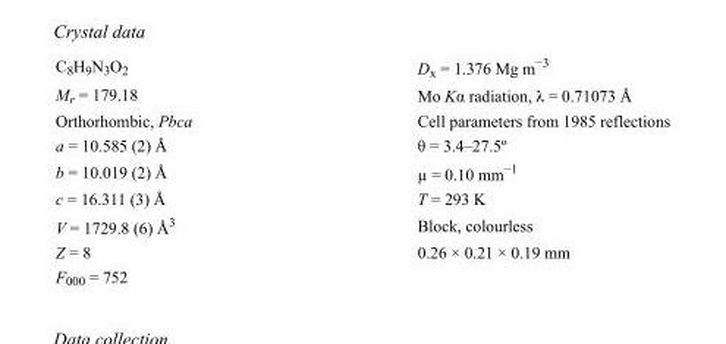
<table><tbody><tr><td>C<sub>8</sub>H<sub>9</sub>N<sub>3</sub>O<sub>2</sub></td><td>D<sub>x</sub> = 1.376 Mg m<sup>−3</sup></td></tr><tr><td>M<sub>r</sub> = 179.18</td><td>Mo Kα radiation, λ = 0.71073 Å</td></tr><tr><td>Orthorhombic, Pbca</td><td>Cell parameters from 1985 reflections</td></tr><tr><td>a = 10.585 (2) Å</td><td>θ = 3.4–27.5º</td></tr><tr><td>b = 10.019 (2) Å</td><td>µ = 0.10 mm<sup>−1</sup></td></tr><tr><td>c = 16.311 (3) Å</td><td>T = 293 K</td></tr><tr><td>V = 1729.8 (6) Å<sup>3</sup></td><td>Block, colourless</td></tr><tr><td>Z = 8</td><td>0.26 × 0.21 × 0.19 mm</td></tr><tr><td>F000 = 752</td><td></td></tr></tbody></table>